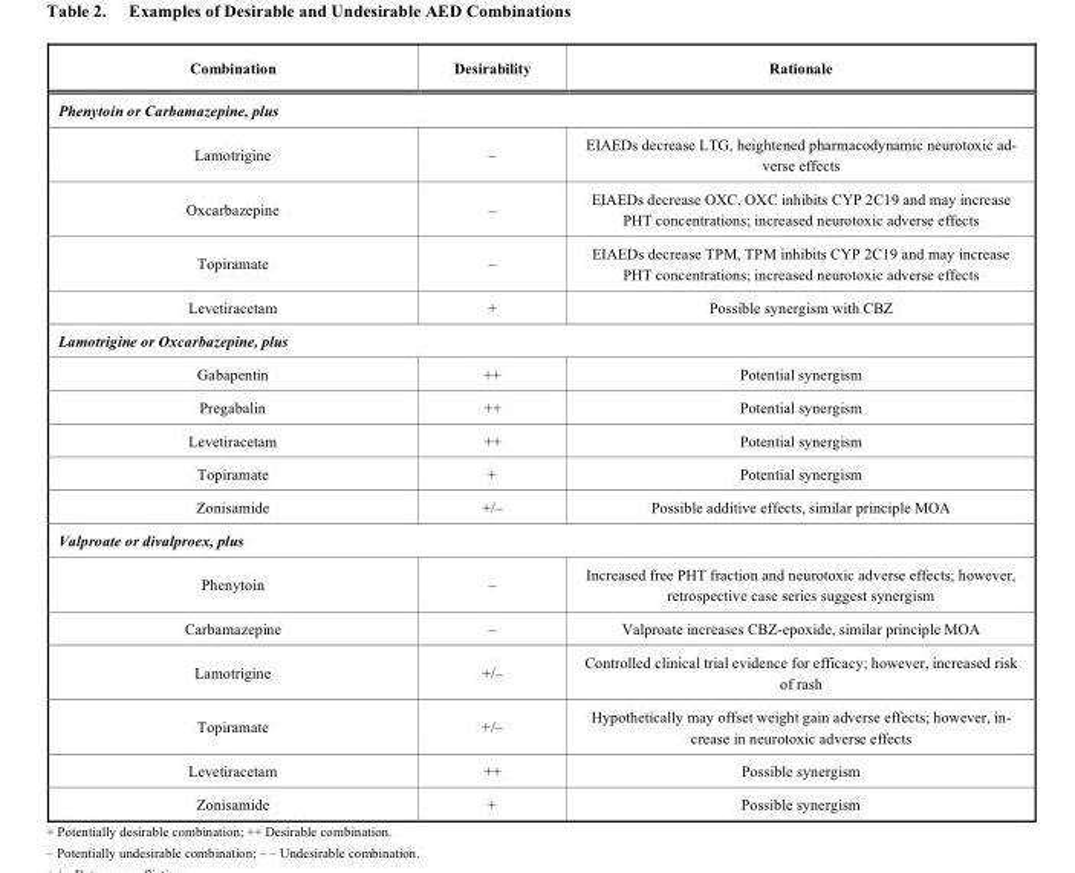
<table><thead><tr><td>Combination</td><td>Desirability</td><td>Rationale</td></tr></thead><tbody><tr><td colspan="3">Phenytoin or Carbamazepine, plus</td></tr><tr><td>Lamotrigine</td><td>–</td><td>EIAEDs decrease LTG, heightened pharmacodynamic neurotoxic ad- verse effects</td></tr><tr><td>Oxcarbazepine</td><td>–</td><td>EIAEDs decrease OXC, OXC inhibits CYP 2C19 and may increase PHT concentrations; increased neurotoxic adverse effects</td></tr><tr><td>Topiramate</td><td>–</td><td>EIAEDs decrease TPM, TPM inhibits CYP 2C19 and may increase PHT concentrations; increased neurotoxic adverse effects</td></tr><tr><td>Levetiracetam</td><td>+</td><td>Possible synergism with CBZ</td></tr><tr><td colspan="3">Lamotrigine or Oxcarbazepine, plus</td></tr><tr><td>Gabapentin</td><td>++</td><td>Potential synergism</td></tr><tr><td>Pregabalin</td><td>++</td><td>Potential synergism</td></tr><tr><td>Levetiracetam</td><td>++</td><td>Potential synergism</td></tr><tr><td>Topiramate</td><td>+</td><td>Potential synergism</td></tr><tr><td>Zonisamide</td><td>+/–</td><td>Possible additive effects, similar principle MOA</td></tr><tr><td colspan="3">Valproate or divalproex, plus</td></tr><tr><td>Phenytoin</td><td>–</td><td>Increased free PHT fraction and neurotoxic adverse effects; however, retrospective case series suggest synergism</td></tr><tr><td>Carbamazepine</td><td>–</td><td>Valproate increases CBZ-epoxide, similar principle MOA</td></tr><tr><td>Lamotrigine</td><td>+/–</td><td>Controlled clinical trial evidence for efficacy; however, increased risk of rash</td></tr><tr><td>Topiramate</td><td>+/–</td><td>Hypothetically may offset weight gain adverse effects; however, in- crease in neurotoxic adverse effects</td></tr><tr><td>Levetiracetam</td><td>++</td><td>Possible synergism</td></tr><tr><td>Zonisamide</td><td>+</td><td>Possible synergism</td></tr></tbody></table>